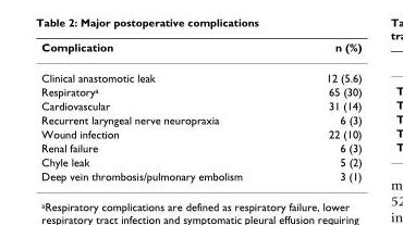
<table><thead><tr><td>Complication</td><td>n (%)</td></tr></thead><tbody><tr><td>Clinical anastomotic leak</td><td>12 (5.6)</td></tr><tr><td>Respiratory<sup>a</sup></td><td>65 (30)</td></tr><tr><td>Cardiovascular</td><td>31 (14)</td></tr><tr><td>Recurrent laryngeal nerve neuropraxia</td><td>6 (3)</td></tr><tr><td>Wound infection</td><td>22 (10)</td></tr><tr><td>Renal failure</td><td>6 (3)</td></tr><tr><td>Chyle leak</td><td>5 (2)</td></tr><tr><td>Deep vein thrombosis/pulmonary embolism</td><td>3 (1)</td></tr></tbody></table>